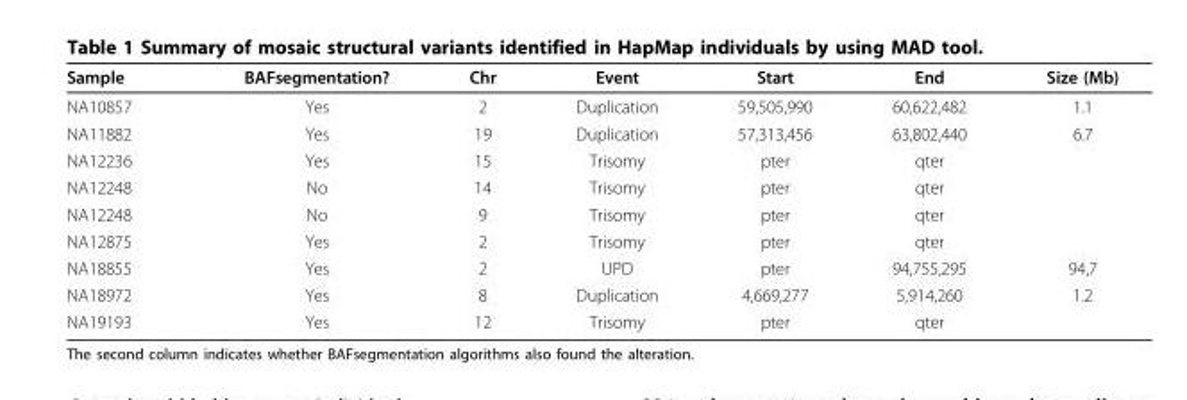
<table><thead><tr><td>Sample</td><td>BAFsegmentation?</td><td>Chr</td><td>Event</td><td>Start</td><td>End</td><td>Size (Mb)</td></tr></thead><tbody><tr><td>NA10857</td><td>Yes</td><td>2</td><td>Duplication</td><td>59,505,990</td><td>60,622,482</td><td>1.1</td></tr><tr><td>NA11882</td><td>Yes</td><td>19</td><td>Duplication</td><td>57,313,456</td><td>63,802,440</td><td>6.7</td></tr><tr><td>NA12236</td><td>Yes</td><td>15</td><td>Trisomy</td><td>pter</td><td>qter</td><td></td></tr><tr><td>NA12248</td><td>No</td><td>14</td><td>Trisomy</td><td>pter</td><td>qter</td><td></td></tr><tr><td>NA12248</td><td>No</td><td>9</td><td>Trisomy</td><td>pter</td><td>qter</td><td></td></tr><tr><td>NA12875</td><td>Yes</td><td>2</td><td>Trisomy</td><td>pter</td><td>qter</td><td></td></tr><tr><td>NA18855</td><td>Yes</td><td>2</td><td>UPD</td><td>pter</td><td>94,755,295</td><td>94,7</td></tr><tr><td>NA18972</td><td>Yes</td><td>8</td><td>Duplication</td><td>4,669,277</td><td>5,914,260</td><td>1.2</td></tr><tr><td>NA19193</td><td>Yes</td><td>12</td><td>Trisomy</td><td>pter</td><td>qter</td><td></td></tr></tbody></table>